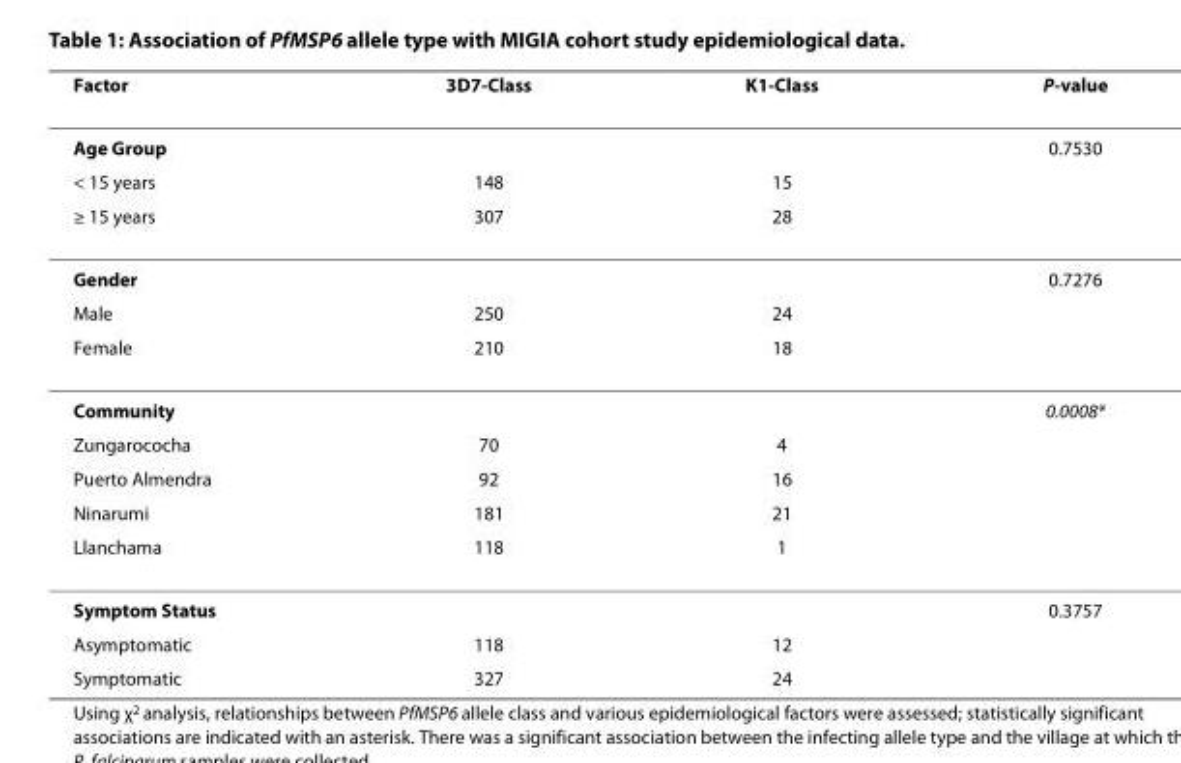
<table><thead><tr><td>Factor</td><td>3D7-Class</td><td>K1-Class</td><td>P-value</td></tr></thead><tbody><tr><td>Age Group</td><td></td><td></td><td>0.7530</td></tr><tr><td>&lt; 15 years</td><td>148</td><td>15</td><td></td></tr><tr><td>≥ 15 years</td><td>307</td><td>28</td><td></td></tr><tr><td>Gender</td><td></td><td></td><td>0.7276</td></tr><tr><td>Male</td><td>250</td><td>24</td><td></td></tr><tr><td>Female</td><td>210</td><td>18</td><td></td></tr><tr><td>Community</td><td></td><td></td><td>0.0008*</td></tr><tr><td>Zungarococha</td><td>70</td><td>4</td><td></td></tr><tr><td>Puerto Almendra</td><td>92</td><td>16</td><td></td></tr><tr><td>Ninarumi</td><td>181</td><td>21</td><td></td></tr><tr><td>Llanchama</td><td>118</td><td>1</td><td></td></tr><tr><td>Symptom Status</td><td></td><td></td><td>0.3757</td></tr><tr><td>Asymptomatic</td><td>118</td><td>12</td><td></td></tr><tr><td>Symptomatic</td><td>327</td><td>24</td><td></td></tr></tbody></table>